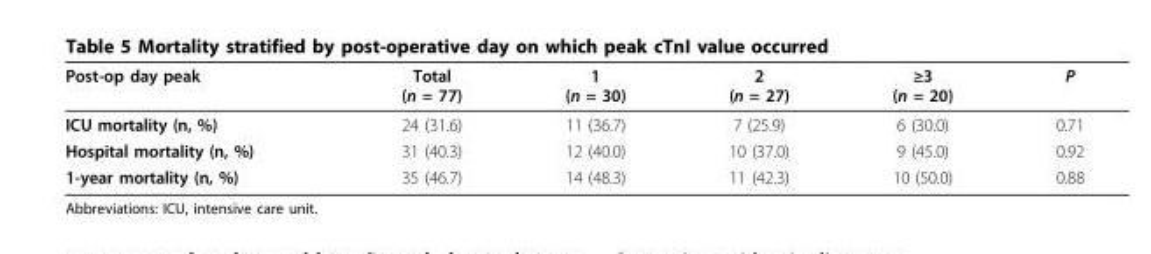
<table><thead><tr><td>Post-op day peak</td><td>Total (n = 77)</td><td>1 (n = 30)</td><td>2 (n = 27)</td><td>≥3 (n = 20)</td><td>P</td></tr></thead><tbody><tr><td>ICU mortality (n, %)</td><td>24 (31.6)</td><td>11 (36.7)</td><td>7 (25.9)</td><td>6 (30.0)</td><td>0.71</td></tr><tr><td>Hospital mortality (n, %)</td><td>31 (40.3)</td><td>12 (40.0)</td><td>10 (37.0)</td><td>9 (45.0)</td><td>0.92</td></tr><tr><td>1-year mortality (n, %)</td><td>35 (46.7)</td><td>14 (48.3)</td><td>11 (42.3)</td><td>10 (50.0)</td><td>0.88</td></tr></tbody></table>